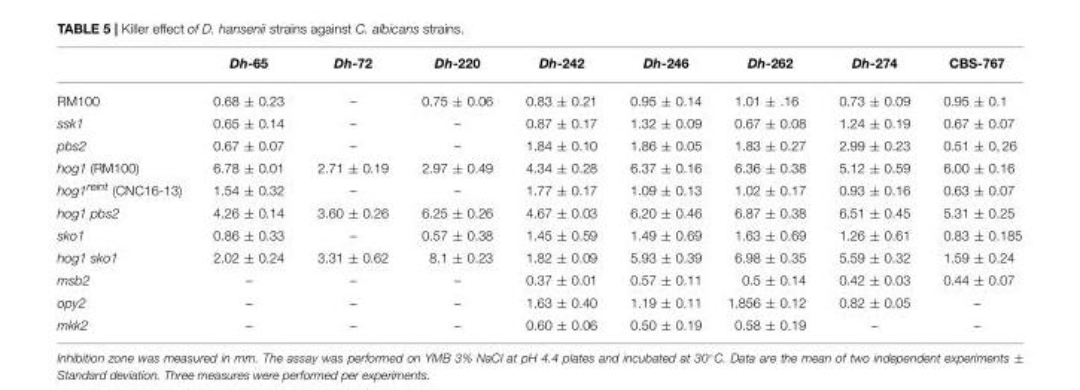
<table><thead><tr><td></td><td>Dh-65</td><td>Dh-72</td><td>Dh-220</td><td>Dh-242</td><td>Dh-246</td><td>Dh-262</td><td>Dh-274</td><td>CBS-767</td></tr></thead><tbody><tr><td>RM100</td><td>0.68 ± 0.23</td><td>–</td><td>0.75 ± 0.06</td><td>0.83 ± 0.21</td><td>0.95 ± 0.14</td><td>1.01 ± .16</td><td>0.73 ± 0.09</td><td>0.95 ± 0.1</td></tr><tr><td>ssk1</td><td>0.65 ± 0.14</td><td>–</td><td>–</td><td>0.87 ± 0.17</td><td>1.32 ± 0.09</td><td>0.67 ± 0.08</td><td>1.24 ± 0.19</td><td>0.67 ± 0.07</td></tr><tr><td>pbs2</td><td>0.67 ± 0.07</td><td>–</td><td>–</td><td>1.84 ± 0.10</td><td>1.86 ± 0.05</td><td>1.83 ± 0.27</td><td>2.99 ± 0.23</td><td>0.51 ± 0, 26</td></tr><tr><td>hog1 (RM100)</td><td>6.78 ± 0.01</td><td>2.71 ± 0.19</td><td>2.97 ± 0.49</td><td>4.34 ± 0.28</td><td>6.37 ± 0.16</td><td>6.36 ± 0.38</td><td>5.12 ± 0.59</td><td>6.00 ± 0.16</td></tr><tr><td>hog1reint (CNC16-13)</td><td>1.54 ± 0.32</td><td>–</td><td>–</td><td>1.77 ± 0.17</td><td>1.09 ± 0.13</td><td>1.02 ± 0.17</td><td>0.93 ± 0.16</td><td>0.63 ± 0.07</td></tr><tr><td>hog1 pbs2</td><td>4.26 ± 0.14</td><td>3.60 ± 0.26</td><td>6.25 ± 0.26</td><td>4.67 ± 0.03</td><td>6.20 ± 0.46</td><td>6.87 ± 0.38</td><td>6.51 ± 0.45</td><td>5.31 ± 0.25</td></tr><tr><td>sko1</td><td>0.86 ± 0.33</td><td>–</td><td>0.57 ± 0.38</td><td>1.45 ± 0.59</td><td>1.49 ± 0.69</td><td>1.63 ± 0.69</td><td>1.26 ± 0.61</td><td>0.83 ± 0.185</td></tr><tr><td>hog1 sko1</td><td>2.02 ± 0.24</td><td>3.31 ± 0.62</td><td>8.1 ± 0.23</td><td>1.82 ± 0.09</td><td>5.93 ± 0.39</td><td>6.98 ± 0.35</td><td>5.59 ± 0.32</td><td>1.59 ± 0.24</td></tr><tr><td>msb2</td><td>–</td><td>–</td><td>–</td><td>0.37 ± 0.01</td><td>0.57 ± 0.11</td><td>0.5 ± 0.14</td><td>0.42 ± 0.03</td><td>0.44 ± 0.07</td></tr><tr><td>opy2</td><td>–</td><td>–</td><td>–</td><td>1.63 ± 0.40</td><td>1.19 ± 0.11</td><td>1.856 ± 0.12</td><td>0.82 ± 0.05</td><td>–</td></tr><tr><td>mkk2</td><td>–</td><td>–</td><td>–</td><td>0.60 ± 0.06</td><td>0.50 ± 0.19</td><td>0.58 ± 0.19</td><td>–</td><td>–</td></tr></tbody></table>